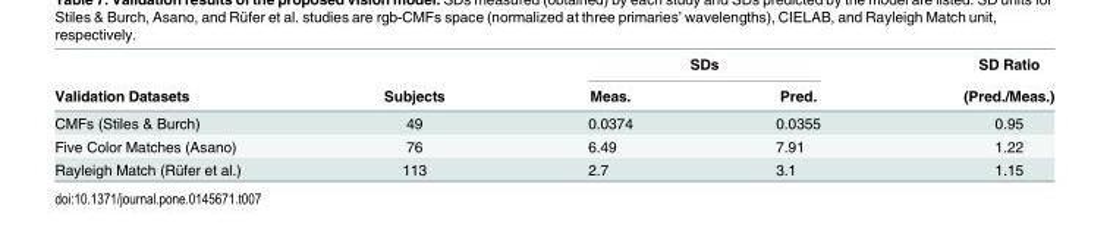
<table><thead><tr><td rowspan="2">Validation Datasets</td><td rowspan="2">Subjects</td><td colspan="2">SDs</td><td rowspan="2">SD Ratio (Pred./Meas.)</td></tr><tr><td>Meas.</td><td>Pred.</td></tr></thead><tbody><tr><td>CMFs (Stiles &amp; Burch)</td><td>49</td><td>0.0374</td><td>0.0355</td><td>0.95</td></tr><tr><td>Five Color Matches (Asano)</td><td>76</td><td>6.49</td><td>7.91</td><td>1.22</td></tr><tr><td>Rayleigh Match (Rüfer et al.)</td><td>113</td><td>2.7</td><td>3.1</td><td>1.15</td></tr></tbody></table>